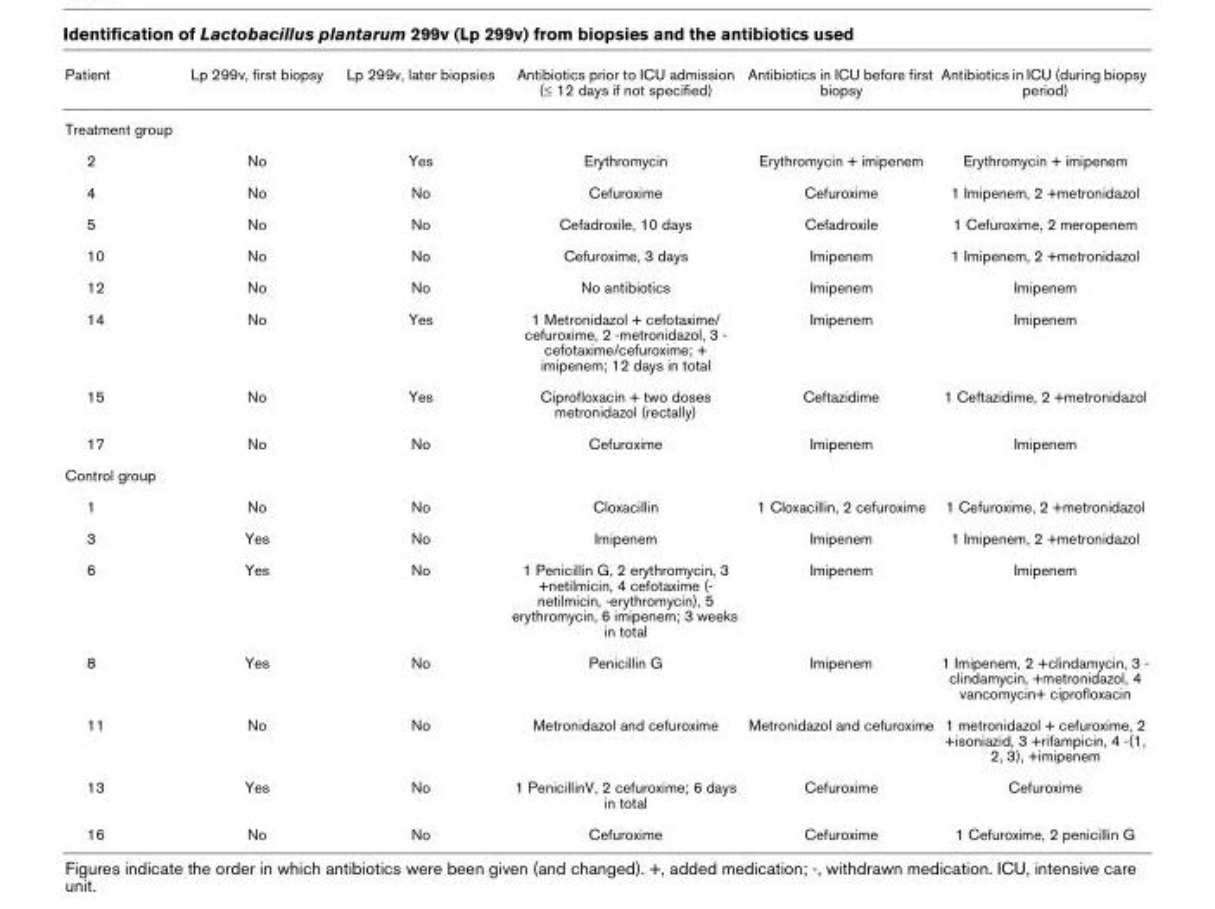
<table><thead><tr><td>Patient</td><td>Lp 299v, first biopsy</td><td>Lp 299v, later biopsies</td><td>Antibiotics prior to ICU admission (≤ 12 days if not specified)</td><td>Antibiotics in ICU before first biopsy</td><td>Antibiotics in ICU (during biopsy period)</td></tr></thead><tbody><tr><td colspan="6">Treatment group</td></tr><tr><td>2</td><td>No</td><td>Yes</td><td>Erythromycin</td><td>Erythromycin + imipenem</td><td>Erythromycin + imipenem</td></tr><tr><td>4</td><td>No</td><td>No</td><td>Cefuroxime</td><td>Cefuroxime</td><td>1 Imipenem, 2 +metronidazol</td></tr><tr><td>5</td><td>No</td><td>No</td><td>Cefadroxile, 10 days</td><td>Cefadroxile</td><td>1 Cefuroxime, 2 meropenem</td></tr><tr><td>10</td><td>No</td><td>No</td><td>Cefuroxime, 3 days</td><td>Imipenem</td><td>1 Imipenem, 2 +metronidazol</td></tr><tr><td>12</td><td>No</td><td>No</td><td>No antibiotics</td><td>Imipenem</td><td>Imipenem</td></tr><tr><td>14</td><td>No</td><td>Yes</td><td>1 Metronidazol + cefotaxime/ cefuroxime, 2 -metronidazol, 3 - cefotaxime/cefuroxime; + imipenem; 12 days in total</td><td>Imipenem</td><td>Imipenem</td></tr><tr><td>15</td><td>No</td><td>Yes</td><td>Ciprofloxacin + two doses metronidazol (rectally)</td><td>Ceftazidime</td><td>1 Ceftazidime, 2 +metronidazol</td></tr><tr><td>17</td><td>No</td><td>No</td><td>Cefuroxime</td><td>Imipenem</td><td>Imipenem</td></tr><tr><td colspan="6">Control group</td></tr><tr><td>1</td><td>No</td><td>No</td><td>Cloxacillin</td><td>1 Cloxacillin, 2 cefuroxime</td><td>1 Cefuroxime, 2 +metronidazol</td></tr><tr><td>3</td><td>Yes</td><td>No</td><td>Imipenem</td><td>Imipenem</td><td>1 Imipenem, 2 +metronidazol</td></tr><tr><td>6</td><td>Yes</td><td>No</td><td>1 Penicillin G, 2 erythromycin, 3 +netilmicin, 4 cefotaxime (- netilmicin, -erythromycin), 5 erythromycin, 6 imipenem; 3 weeks in total</td><td>Imipenem</td><td>Imipenem</td></tr><tr><td>8</td><td>Yes</td><td>No</td><td>Penicillin G</td><td>Imipenem</td><td>1 Imipenem, 2 +clindamycin, 3 - clindamycin, +metronidazol, 4 vancomycin+ ciprofloxacin</td></tr><tr><td>11</td><td>No</td><td>No</td><td>Metronidazol and cefuroxime</td><td>Metronidazol and cefuroxime</td><td>1 metronidazol + cefuroxime, 2 +isoniazid, 3 +rifampicin, 4 -(1, 2, 3), +imipenem</td></tr><tr><td>13</td><td>Yes</td><td>No</td><td>1 PenicillinV, 2 cefuroxime; 6 days in total</td><td>Cefuroxime</td><td>Cefuroxime</td></tr><tr><td>16</td><td>No</td><td>No</td><td>Cefuroxime</td><td>Cefuroxime</td><td>1 Cefuroxime, 2 penicillin G</td></tr></tbody></table>